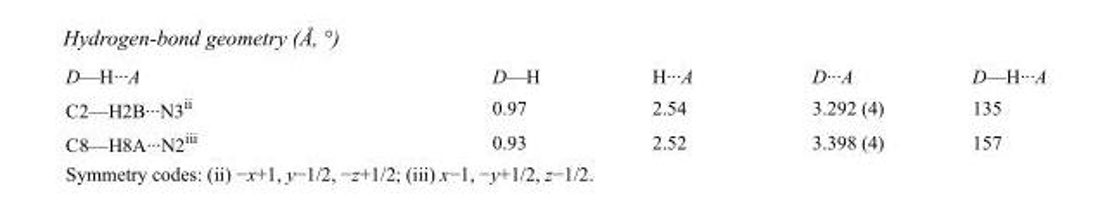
<table><tbody><tr><td>D—H···A</td><td>D—H</td><td>H···A</td><td>D···A</td><td>D—H···A</td></tr><tr><td>C2—H2B···N3<sup>ii</sup></td><td>0.97</td><td>2.54</td><td>3.292 (4)</td><td>135</td></tr><tr><td>C8—H8A···N2<sup>iii</sup></td><td>0.93</td><td>2.52</td><td>3.398 (4)</td><td>157</td></tr></tbody></table>